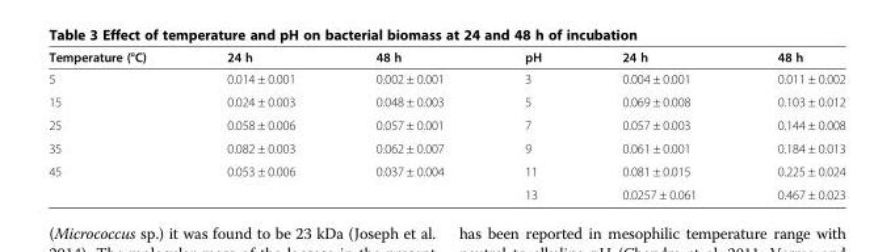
<table><thead><tr><td>Temperature (°C)</td><td>24 h</td><td>48 h</td><td>pH</td><td>24 h</td><td>48 h</td></tr></thead><tbody><tr><td>5</td><td>0.014 ± 0.001</td><td>0.002 ± 0.001</td><td>3</td><td>0.004 ± 0.001</td><td>0.011 ± 0.002</td></tr><tr><td>15</td><td>0.024 ± 0.003</td><td>0.048 ± 0.003</td><td>5</td><td>0.069 ± 0.008</td><td>0.103 ± 0.012</td></tr><tr><td>25</td><td>0.058 ± 0.006</td><td>0.057 ± 0.001</td><td>7</td><td>0.057 ± 0.003</td><td>0.144 ± 0.008</td></tr><tr><td>35</td><td>0.082 ± 0.003</td><td>0.062 ± 0.007</td><td>9</td><td>0.061 ± 0.001</td><td>0.184 ± 0.013</td></tr><tr><td rowspan="2">45</td><td>0.053 ± 0.006</td><td>0.037 ± 0.004</td><td>11</td><td>0.081 ± 0.015</td><td>0.225 ± 0.024</td></tr><tr><td></td><td></td><td>13</td><td>0.0257 ± 0.061</td><td>0.467 ± 0.023</td></tr></tbody></table>